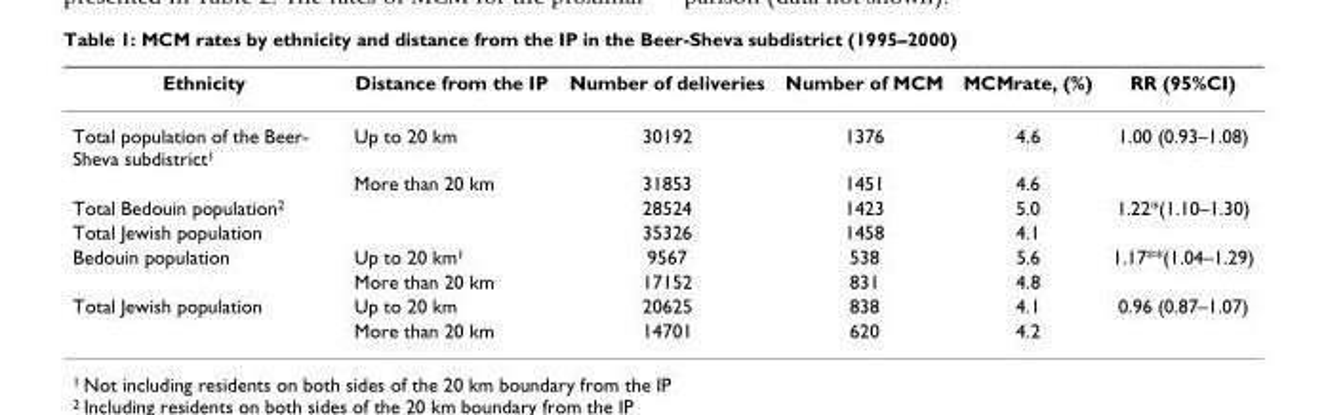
<table><thead><tr><td>Ethnicity</td><td>Distance from the IP</td><td>Number of deliveries</td><td>Number of MCM</td><td>MCMrate, (%)</td><td>RR (95%CI)</td></tr></thead><tbody><tr><td rowspan="2">Total population of the Beer- Sheva subdistrict<sup>1</sup></td><td>Up to 20 km</td><td>30192</td><td>1376</td><td>4.6</td><td>1.00 (0.93–1.08)</td></tr><tr><td>More than 20 km</td><td>31853</td><td>1451</td><td>4.6</td><td></td></tr><tr><td>Total Bedouin population<sup>2</sup></td><td></td><td>28524</td><td>1423</td><td>5.0</td><td>1.22*(1.10–1.30)</td></tr><tr><td>Total Jewish population</td><td></td><td>35326</td><td>1458</td><td>4.1</td><td></td></tr><tr><td rowspan="2">Bedouin population</td><td>Up to 20 km<sup>1</sup></td><td>9567</td><td>538</td><td>5.6</td><td>1.17**(1.04–1.29)</td></tr><tr><td>More than 20 km</td><td>17152</td><td>831</td><td>4.8</td><td></td></tr><tr><td rowspan="2">Total Jewish population</td><td>Up to 20 km</td><td>20625</td><td>838</td><td>4.1</td><td>0.96 (0.87–1.07)</td></tr><tr><td>More than 20 km</td><td>14701</td><td>620</td><td>4.2</td><td></td></tr></tbody></table>